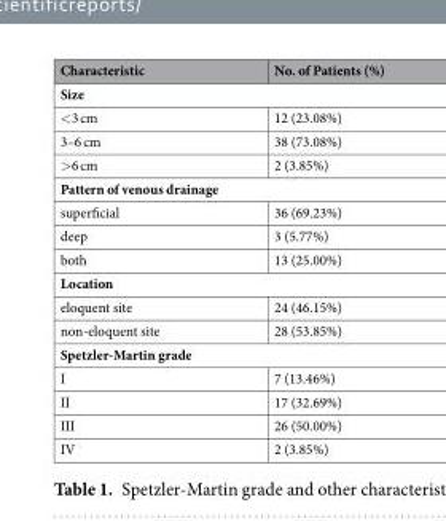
<table><thead><tr><td>Characteristic</td><td>No. of Patients (%)</td></tr></thead><tbody><tr><td colspan="2">Size</td></tr><tr><td>&lt;3 cm</td><td>12 (23.08%)</td></tr><tr><td>3–6 cm</td><td>38 (73.08%)</td></tr><tr><td>&gt;6 cm</td><td>2 (3.85%)</td></tr><tr><td colspan="2">Pattern of venous drainage</td></tr><tr><td>superficial</td><td>36 (69.23%)</td></tr><tr><td>deep</td><td>3 (5.77%)</td></tr><tr><td>both</td><td>13 (25.00%)</td></tr><tr><td colspan="2">Location</td></tr><tr><td>eloquent site</td><td>24 (46.15%)</td></tr><tr><td>non-eloquent site</td><td>28 (53.85%)</td></tr><tr><td colspan="2">Spetzler-Martin grade</td></tr><tr><td>I</td><td>7 (13.46%)</td></tr><tr><td>II</td><td>17 (32.69%)</td></tr><tr><td>III</td><td>26 (50.00%)</td></tr><tr><td>IV</td><td>2 (3.85%)</td></tr></tbody></table>